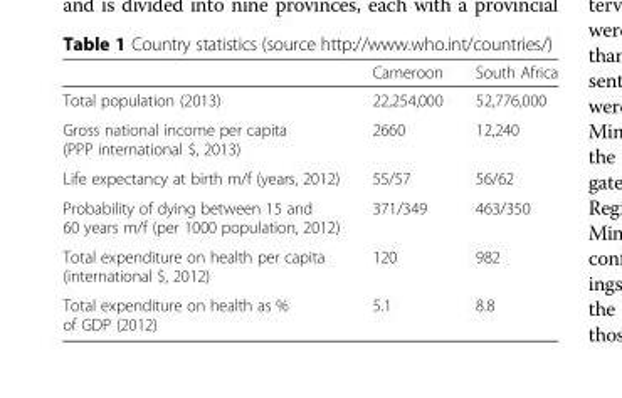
<table><thead><tr><td></td><td>Cameroon</td><td>South Africa</td></tr></thead><tbody><tr><td>Total population (2013)</td><td>22,254,000</td><td>52,776,000</td></tr><tr><td>Gross national income per capita (PPP international $, 2013)</td><td>2660</td><td>12,240</td></tr><tr><td>Life expectancy at birth m/f (years, 2012)</td><td>55/57</td><td>56/62</td></tr><tr><td>Probability of dying between 15 and 60 years m/f (per 1000 population, 2012)</td><td>371/349</td><td>463/350</td></tr><tr><td>Total expenditure on health per capita (international $, 2012)</td><td>120</td><td>982</td></tr><tr><td>Total expenditure on health as % of GDP (2012)</td><td>5.1</td><td>8.8</td></tr></tbody></table>